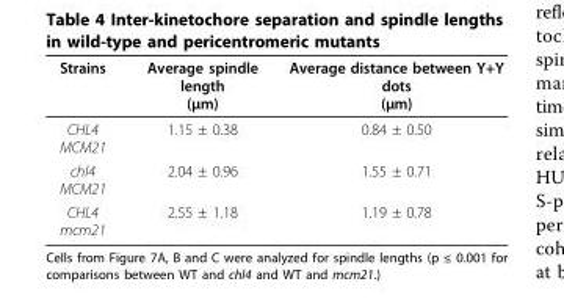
<table><thead><tr><td>Strains</td><td>Average spindle length (μm)</td><td>Average distance between Y+Y dots (μm)</td></tr></thead><tbody><tr><td>CHL4 MCM21</td><td>1.15 ± 0.38</td><td>0.84 ± 0.50</td></tr><tr><td>chl4 MCM21</td><td>2.04 ± 0.96</td><td>1.55 ± 0.71</td></tr><tr><td>CHL4 mcm21</td><td>2.55 ± 1.18</td><td>1.19 ± 0.78</td></tr></tbody></table>